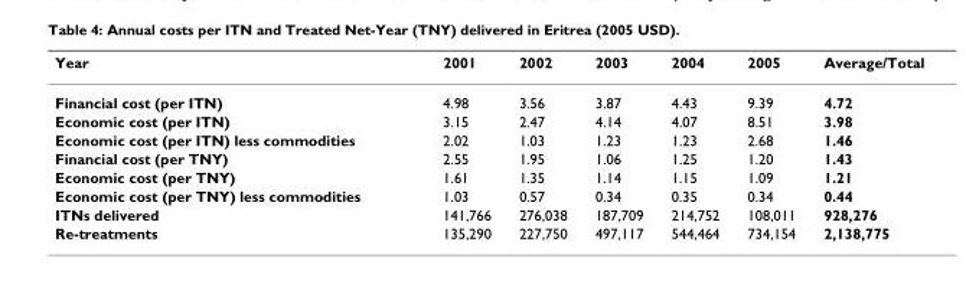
<table><thead><tr><td>Year</td><td>2001</td><td>2002</td><td>2003</td><td>2004</td><td>2005</td><td>Average/Total</td></tr></thead><tbody><tr><td>Financial cost (per ITN)</td><td>4.98</td><td>3.56</td><td>3.87</td><td>4.43</td><td>9.39</td><td>4.72</td></tr><tr><td>Economic cost (per ITN)</td><td>3.15</td><td>2.47</td><td>4.14</td><td>4.07</td><td>8.51</td><td>3.98</td></tr><tr><td>Economic cost (per ITN) less commodities</td><td>2.02</td><td>1.03</td><td>1.23</td><td>1.23</td><td>2.68</td><td>1.46</td></tr><tr><td>Financial cost (per TNY)</td><td>2.55</td><td>1.95</td><td>1.06</td><td>1.25</td><td>1.20</td><td>1.43</td></tr><tr><td>Economic cost (per TNY)</td><td>1.61</td><td>1.35</td><td>1.14</td><td>1.15</td><td>1.09</td><td>1.21</td></tr><tr><td>Economic cost (per TNY) less commodities</td><td>1.03</td><td>0.57</td><td>0.34</td><td>0.35</td><td>0.34</td><td>0.44</td></tr><tr><td>ITNs delivered</td><td>141,766</td><td>276,038</td><td>187,709</td><td>214,752</td><td>108,011</td><td>928,276</td></tr><tr><td>Re-treatments</td><td>135,290</td><td>227,750</td><td>497,117</td><td>544,464</td><td>734,154</td><td>2,138,775</td></tr></tbody></table>